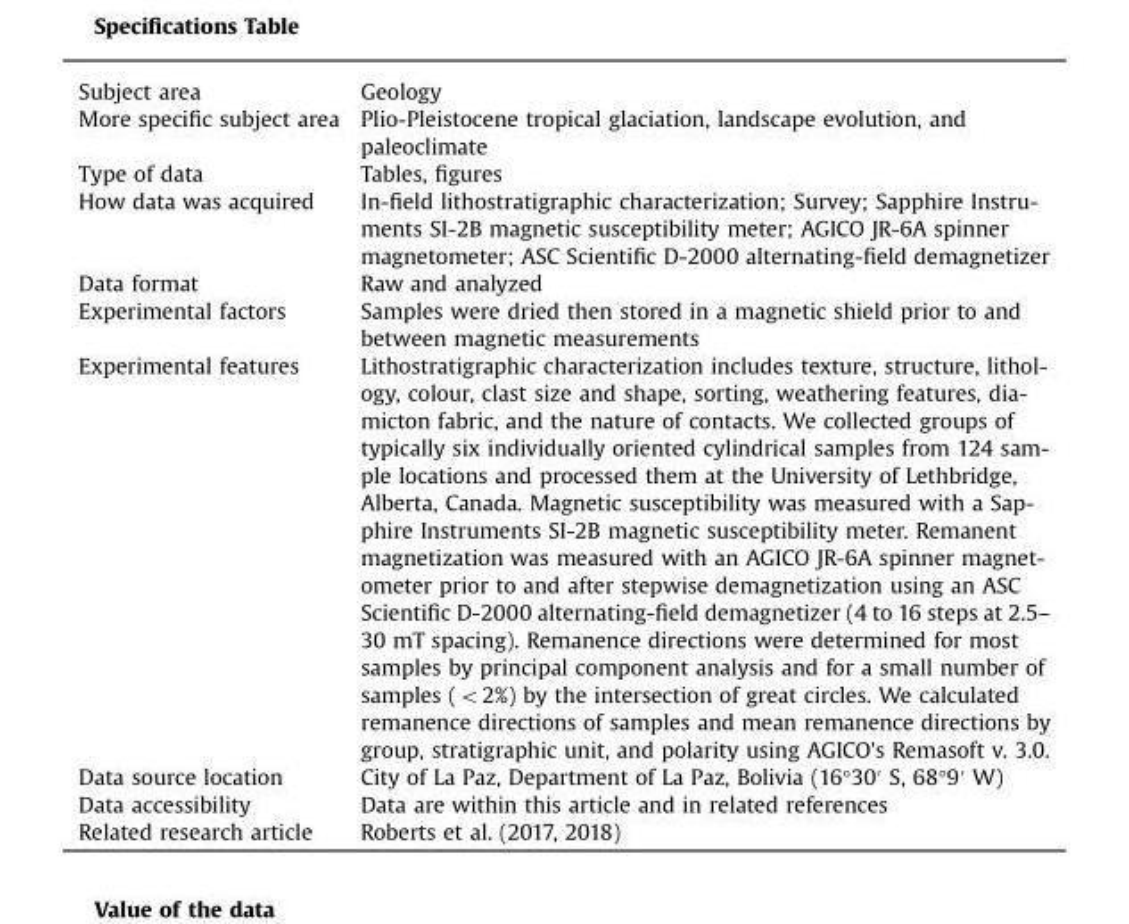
<table><tbody><tr><td>Subject area</td><td>Geology</td></tr><tr><td>More specific subject area</td><td>Plio-Pleistocene tropical glaciation, landscape evolution, and paleoclimate</td></tr><tr><td>Type of data</td><td>Tables, figures</td></tr><tr><td>How data was acquired</td><td>In-field lithostratigraphic characterization; Survey; Sapphire Instru- ments SI-2B magnetic susceptibility meter; AGICO JR-6A spinner magnetometer; ASC Scientific D-2000 alternating-field demagnetizer</td></tr><tr><td>Data format</td><td>Raw and analyzed</td></tr><tr><td>Experimental factors</td><td>Samples were dried then stored in a magnetic shield prior to and between magnetic measurements</td></tr><tr><td>Experimental features</td><td>Lithostratigraphic characterization includes texture, structure, lithol- ogy, colour, clast size and shape, sorting, weathering features, dia- micton fabric, and the nature of contacts. We collected groups of typically six individually oriented cylindrical samples from 124 sam- ple locations and processed them at the University of Lethbridge, Alberta, Canada. Magnetic susceptibility was measured with a Sap- phire Instruments SI-2B magnetic susceptibility meter. Remanent magnetization was measured with an AGICO JR-6A spinner magnet- ometer prior to and after stepwise demagnetization using an ASC Scientific D-2000 alternating-field demagnetizer (4 to 16 steps at 2.5– 30 mT spacing). Remanence directions were determined for most samples by principal component analysis and for a small number of samples (o2%) by the intersection of great circles. We calculated remanence directions of samples and mean remanence directions by group, stratigraphic unit, and polarity using AGICO&#x27;s Remasoft v. 3.0.</td></tr><tr><td>Data source location</td><td>City of La Paz, Department of La Paz, Bolivia (16°30′ S, 68°9′ W)</td></tr><tr><td>Data accessibility</td><td>Data are within this article and in related references</td></tr><tr><td>Related research article</td><td>Roberts et al. (2017, 2018)</td></tr></tbody></table>